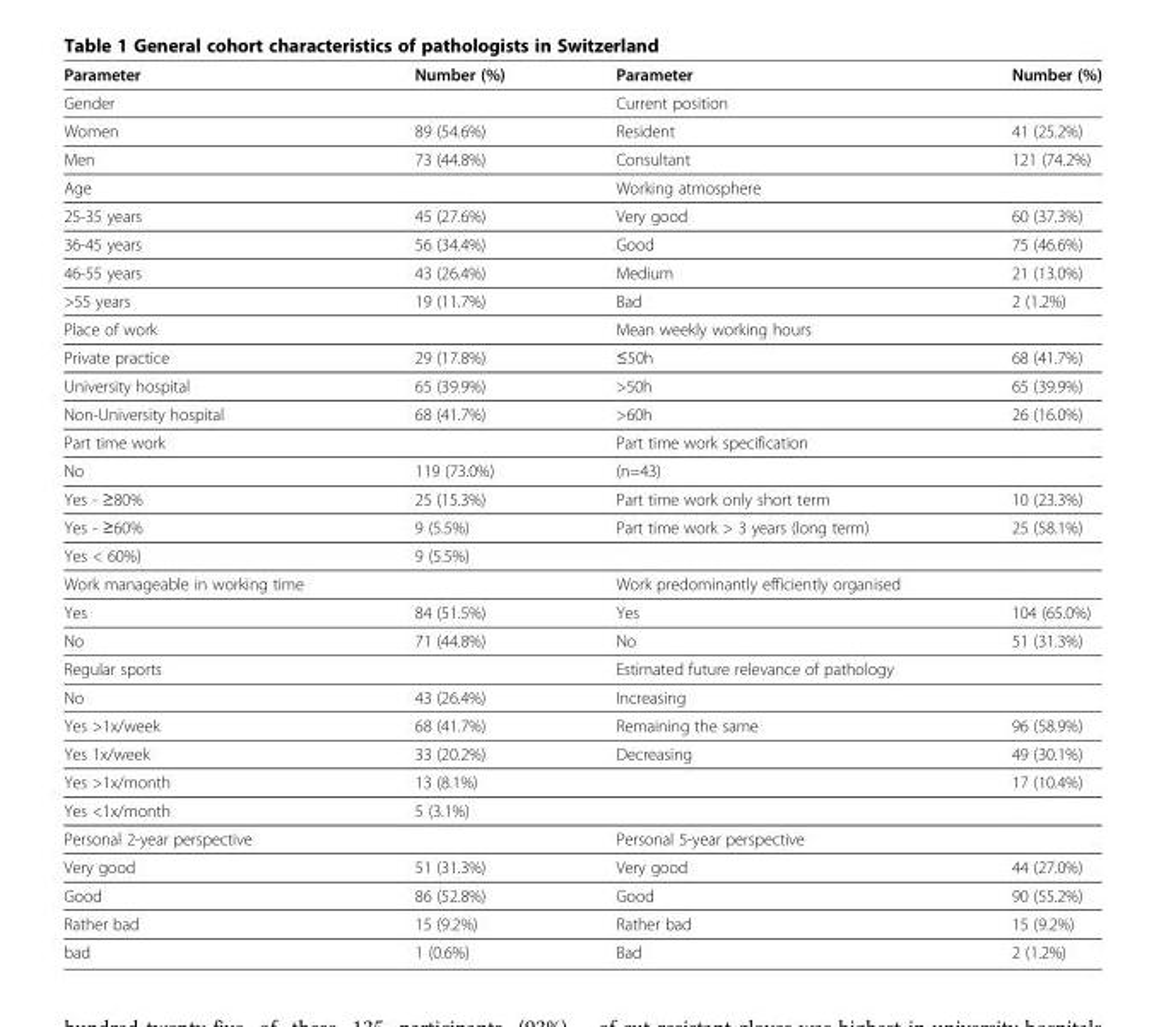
<table><thead><tr><td>Parameter</td><td>Number (%)</td><td>Parameter</td><td>Number (%)</td></tr></thead><tbody><tr><td>Gender</td><td></td><td>Current position</td><td></td></tr><tr><td>Women</td><td>89 (54.6%)</td><td>Resident</td><td>41 (25.2%)</td></tr><tr><td>Men</td><td>73 (44.8%)</td><td>Consultant</td><td>121 (74.2%)</td></tr><tr><td>Age</td><td></td><td>Working atmosphere</td><td></td></tr><tr><td>25-35 years</td><td>45 (27.6%)</td><td>Very good</td><td>60 (37.3%)</td></tr><tr><td>36-45 years</td><td>56 (34.4%)</td><td>Good</td><td>75 (46.6%)</td></tr><tr><td>46-55 years</td><td>43 (26.4%)</td><td>Medium</td><td>21 (13.0%)</td></tr><tr><td>&gt;55 years</td><td>19 (11.7%)</td><td>Bad</td><td>2 (1.2%)</td></tr><tr><td>Place of work</td><td></td><td>Mean weekly working hours</td><td></td></tr><tr><td>Private practice</td><td>29 (17.8%)</td><td>≤50h</td><td>68 (41.7%)</td></tr><tr><td>University hospital</td><td>65 (39.9%)</td><td>&gt;50h</td><td>65 (39.9%)</td></tr><tr><td>Non-University hospital</td><td>68 (41.7%)</td><td>&gt;60h</td><td>26 (16.0%)</td></tr><tr><td>Part time work</td><td></td><td>Part time work specification</td><td></td></tr><tr><td>No</td><td>119 (73.0%)</td><td>(n=43)</td><td></td></tr><tr><td>Yes - ≥80%</td><td>25 (15.3%)</td><td>Part time work only short term</td><td>10 (23.3%)</td></tr><tr><td>Yes - ≥60%</td><td>9 (5.5%)</td><td>Part time work &gt; 3 years (long term)</td><td>25 (58.1%)</td></tr><tr><td>Yes &lt; 60%)</td><td>9 (5.5%)</td><td></td><td></td></tr><tr><td>Work manageable in working time</td><td></td><td>Work predominantly efficiently organised</td><td></td></tr><tr><td>Yes</td><td>84 (51.5%)</td><td>Yes</td><td>104 (65.0%)</td></tr><tr><td>No</td><td>71 (44.8%)</td><td>No</td><td>51 (31.3%)</td></tr><tr><td>Regular sports</td><td></td><td>Estimated future relevance of pathology</td><td></td></tr><tr><td>No</td><td>43 (26.4%)</td><td>Increasing</td><td></td></tr><tr><td>Yes &gt;1x/week</td><td>68 (41.7%)</td><td>Remaining the same</td><td>96 (58.9%)</td></tr><tr><td>Yes 1x/week</td><td>33 (20.2%)</td><td>Decreasing</td><td>49 (30.1%)</td></tr><tr><td>Yes &gt;1x/month</td><td>13 (8.1%)</td><td></td><td>17 (10.4%)</td></tr><tr><td>Yes &lt;1x/month</td><td>5 (3.1%)</td><td></td><td></td></tr><tr><td>Personal 2-year perspective</td><td></td><td>Personal 5-year perspective</td><td></td></tr><tr><td>Very good</td><td>51 (31.3%)</td><td>Very good</td><td>44 (27.0%)</td></tr><tr><td>Good</td><td>86 (52.8%)</td><td>Good</td><td>90 (55.2%)</td></tr><tr><td>Rather bad</td><td>15 (9.2%)</td><td>Rather bad</td><td>15 (9.2%)</td></tr><tr><td>bad</td><td>1 (0.6%)</td><td>Bad</td><td>2 (1.2%)</td></tr></tbody></table>